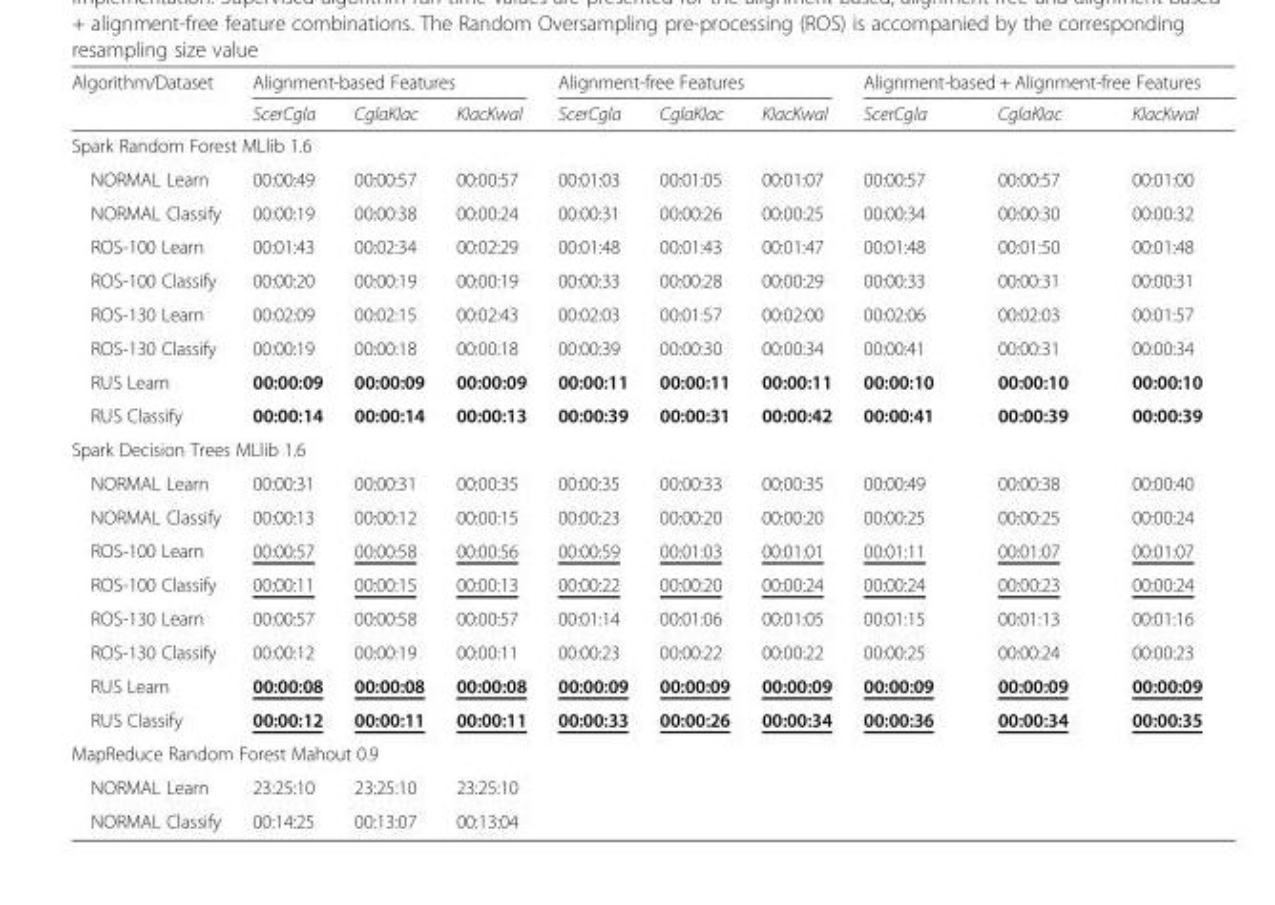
<table><thead><tr><td rowspan="2">Algorithm/Dataset</td><td colspan="3">Alignment-based Features</td><td colspan="3">Alignment-free Features</td><td colspan="3">Alignment-based + Alignment-free Features</td></tr><tr><td>ScerCgla</td><td>CglaKlac</td><td>KlacKwal</td><td>ScerCgla</td><td>CglaKlac</td><td>KlacKwal</td><td>ScerCgla</td><td>CglaKlac</td><td>KlacKwal</td></tr></thead><tbody><tr><td colspan="10">Spark Random Forest MLlib 1.6</td></tr><tr><td>NORMAL Learn</td><td>00:00:49</td><td>00:00:57</td><td>00:00:57</td><td>00:01:03</td><td>00:01:05</td><td>00:01:07</td><td>00:00:57</td><td>00:00:57</td><td>00:01:00</td></tr><tr><td>NORMAL Classify</td><td>00:00:19</td><td>00:00:38</td><td>00:00:24</td><td>00:00:31</td><td>00:00:26</td><td>00:00:25</td><td>00:00:34</td><td>00:00:30</td><td>00:00:32</td></tr><tr><td>ROS-100 Learn</td><td>00:01:43</td><td>00:02:34</td><td>00:02:29</td><td>00:01:48</td><td>00:01:43</td><td>00:01:47</td><td>00:01:48</td><td>00:01:50</td><td>00:01:48</td></tr><tr><td>ROS-100 Classify</td><td>00:00:20</td><td>00:00:19</td><td>00:00:19</td><td>00:00:33</td><td>00:00:28</td><td>00:00:29</td><td>00:00:33</td><td>00:00:31</td><td>00:00:31</td></tr><tr><td>ROS-130 Learn</td><td>00:02:09</td><td>00:02:15</td><td>00:02:43</td><td>00:02:03</td><td>00:01:57</td><td>00:02:00</td><td>00:02:06</td><td>00:02:03</td><td>00:01:57</td></tr><tr><td>ROS-130 Classify</td><td>00:00:19</td><td>00:00:18</td><td>00:00:18</td><td>00:00:39</td><td>00:00:30</td><td>00:00:34</td><td>00:00:41</td><td>00:00:31</td><td>00:00:34</td></tr><tr><td>RUS Learn</td><td>00:00:09</td><td>00:00:09</td><td>00:00:09</td><td>00:00:11</td><td>00:00:11</td><td>00:00:11</td><td>00:00:10</td><td>00:00:10</td><td>00:00:10</td></tr><tr><td>RUS Classify</td><td>00:00:14</td><td>00:00:14</td><td>00:00:13</td><td>00:00:39</td><td>00:00:31</td><td>00:00:42</td><td>00:00:41</td><td>00:00:39</td><td>00:00:39</td></tr><tr><td colspan="10">Spark Decision Trees MLlib 1.6</td></tr><tr><td>NORMAL Learn</td><td>00:00:31</td><td>00:00:31</td><td>00:00:35</td><td>00:00:35</td><td>00:00:33</td><td>00:00:35</td><td>00:00:49</td><td>00:00:38</td><td>00:00:40</td></tr><tr><td>NORMAL Classify</td><td>00:00:13</td><td>00:00:12</td><td>00:00:15</td><td>00:00:23</td><td>00:00:20</td><td>00:00:20</td><td>00:00:25</td><td>00:00:25</td><td>00:00:24</td></tr><tr><td>ROS-100 Learn</td><td>00:00:57</td><td>00:00:58</td><td>00:00:56</td><td>00:00:59</td><td>00:01:03</td><td>00:01:01</td><td>00:01:11</td><td>00:01:07</td><td>00:01:07</td></tr><tr><td>ROS-100 Classify</td><td>00:00:11</td><td>00:00:15</td><td>00:00:13</td><td>00:00:22</td><td>00:00:20</td><td>00:00:24</td><td>00:00:24</td><td>00:00:23</td><td>00:00:24</td></tr><tr><td>ROS-130 Learn</td><td>00:00:57</td><td>00:00:58</td><td>00:00:57</td><td>00:01:14</td><td>00:01:06</td><td>00:01:05</td><td>00:01:15</td><td>00:01:13</td><td>00:01:16</td></tr><tr><td>ROS-130 Classify</td><td>00:00:12</td><td>00:00:19</td><td>00:00:11</td><td>00:00:23</td><td>00:00:22</td><td>00:00:22</td><td>00:00:25</td><td>00:00:24</td><td>00:00:23</td></tr><tr><td>RUS Learn</td><td>00:00:08</td><td>00:00:08</td><td>00:00:08</td><td>00:00:09</td><td>00:00:09</td><td>00:00:09</td><td>00:00:09</td><td>00:00:09</td><td>00:00:09</td></tr><tr><td>RUS Classify</td><td>00:00:12</td><td>00:00:11</td><td>00:00:11</td><td>00:00:33</td><td>00:00:26</td><td>00:00:34</td><td>00:00:36</td><td>00:00:34</td><td>00:00:35</td></tr><tr><td colspan="10">MapReduce Random Forest Mahout 0.9</td></tr><tr><td>NORMAL Learn</td><td>23:25:10</td><td>23:25:10</td><td>23:25:10</td><td></td><td></td><td></td><td></td><td></td><td></td></tr><tr><td>NORMAL Classify</td><td>00:14:25</td><td>00:13:07</td><td>00:13:04</td><td></td><td></td><td></td><td></td><td></td><td></td></tr></tbody></table>